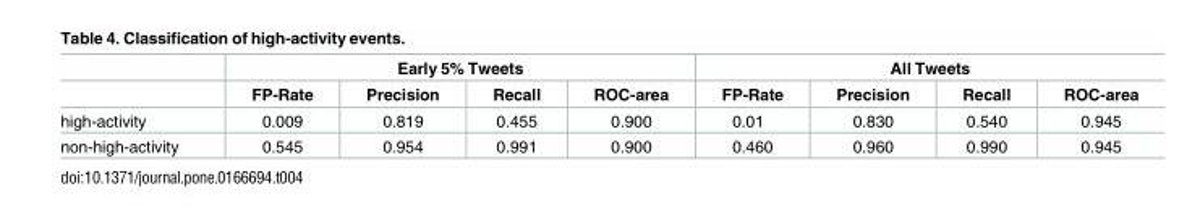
<table><thead><tr><td rowspan="2"></td><td colspan="4">Early 5% Tweets</td><td colspan="4">All Tweets</td></tr><tr><td>FP-Rate</td><td>Precision</td><td>Recall</td><td>ROC-area</td><td>FP-Rate</td><td>Precision</td><td>Recall</td><td>ROC-area</td></tr></thead><tbody><tr><td>high-activity</td><td>0.009</td><td>0.819</td><td>0.455</td><td>0.900</td><td>0.01</td><td>0.830</td><td>0.540</td><td>0.945</td></tr><tr><td>non-high-activity</td><td>0.545</td><td>0.954</td><td>0.991</td><td>0.900</td><td>0.460</td><td>0.960</td><td>0.990</td><td>0.945</td></tr></tbody></table>